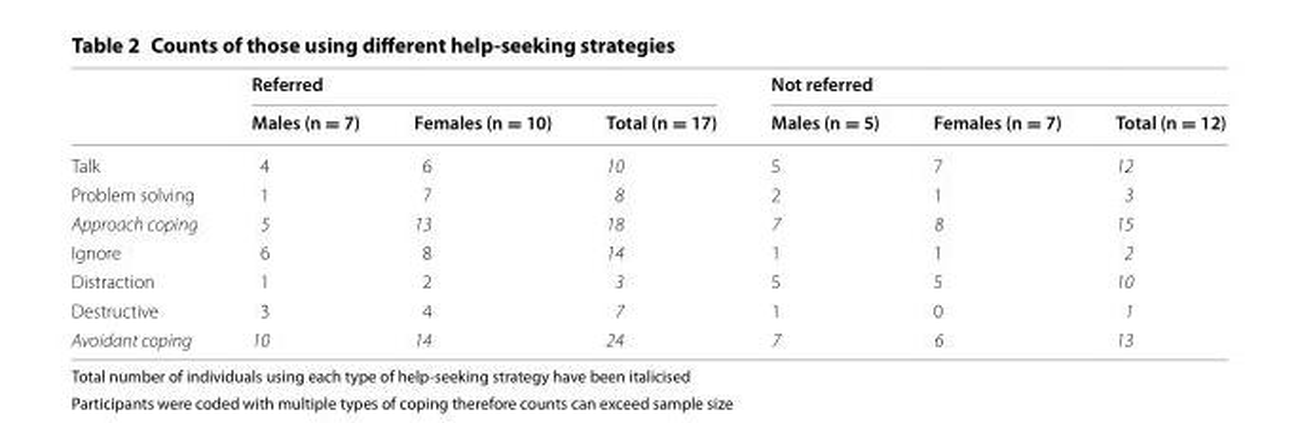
<table><thead><tr><td rowspan="2"></td><td colspan="3">Referred</td><td colspan="3">Not referred</td></tr><tr><td>Males (n = 7)</td><td>Females (n = 10)</td><td>Total (n = 17)</td><td>Males (n = 5)</td><td>Females (n = 7)</td><td>Total (n = 12)</td></tr></thead><tbody><tr><td>Talk</td><td>4</td><td>6</td><td>10</td><td>5</td><td>7</td><td>12</td></tr><tr><td>Problem solving</td><td>1</td><td>7</td><td>8</td><td>2</td><td>1</td><td>3</td></tr><tr><td>Approach coping</td><td>5</td><td>13</td><td>18</td><td>7</td><td>8</td><td>15</td></tr><tr><td>Ignore</td><td>6</td><td>8</td><td>14</td><td>1</td><td>1</td><td>2</td></tr><tr><td>Distraction</td><td>1</td><td>2</td><td>3</td><td>5</td><td>5</td><td>10</td></tr><tr><td>Destructive</td><td>3</td><td>4</td><td>7</td><td>1</td><td>0</td><td>1</td></tr><tr><td>Avoidant coping</td><td>10</td><td>14</td><td>24</td><td>7</td><td>6</td><td>13</td></tr></tbody></table>